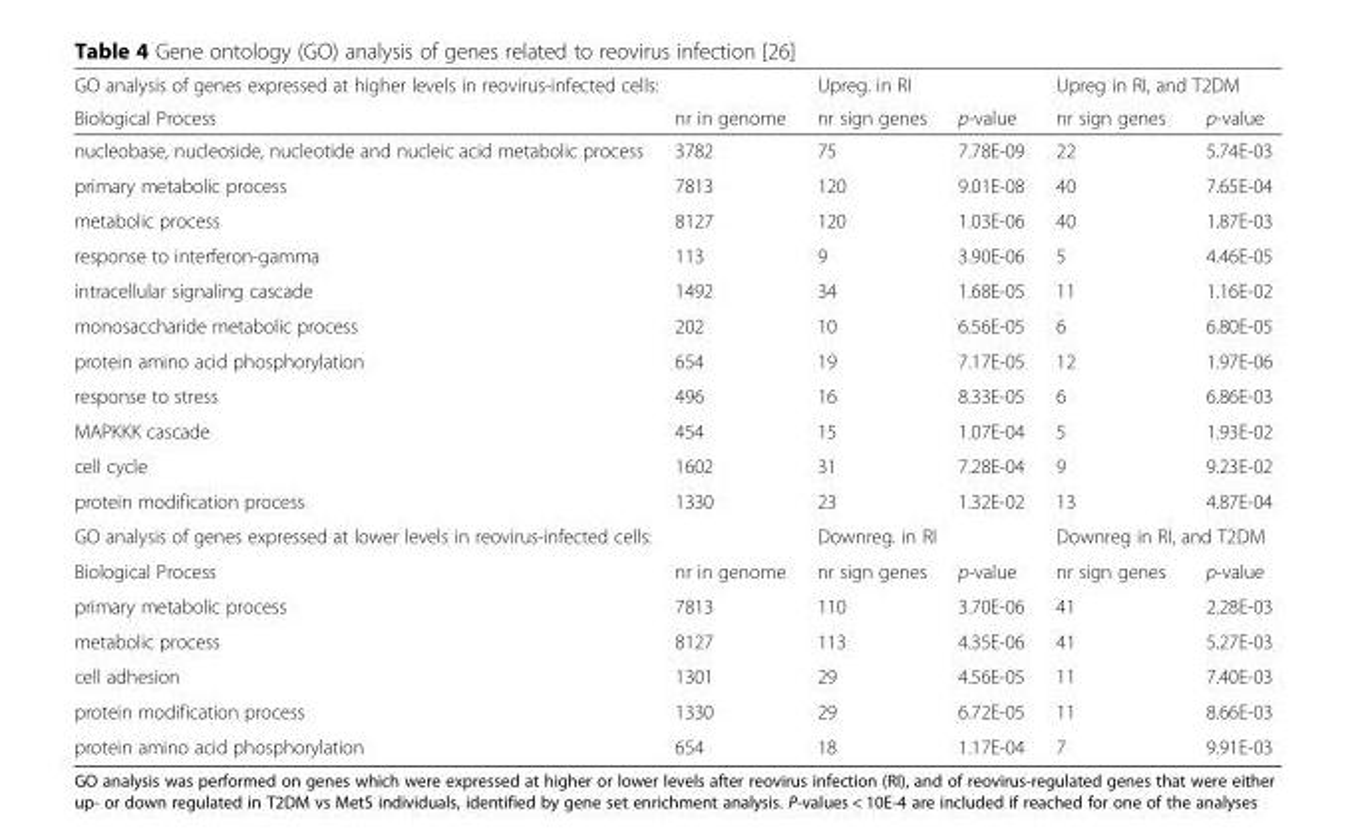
<table><thead><tr><td colspan="2">GO analysis of genes expressed at higher levels in reovirus-infected cells:</td><td colspan="2">Upreg. in RI</td><td colspan="2">Upreg in RI, and T2DM</td></tr><tr><td>Biological Process</td><td>nr in genome</td><td>nr sign genes</td><td>p-value</td><td>nr sign genes</td><td>p-value</td></tr></thead><tbody><tr><td>nucleobase, nucleoside, nucleotide and nucleic acid metabolic process</td><td>3782</td><td>75</td><td>7.78E-09</td><td>22</td><td>5.74E-03</td></tr><tr><td>primary metabolic process</td><td>7813</td><td>120</td><td>9.01E-08</td><td>40</td><td>7.65E-04</td></tr><tr><td>metabolic process</td><td>8127</td><td>120</td><td>1.03E-06</td><td>40</td><td>1.87E-03</td></tr><tr><td>response to interferon-gamma</td><td>113</td><td>9</td><td>3.90E-06</td><td>5</td><td>4.46E-05</td></tr><tr><td>intracellular signaling cascade</td><td>1492</td><td>34</td><td>1.68E-05</td><td>11</td><td>1.16E-02</td></tr><tr><td>monosaccharide metabolic process</td><td>202</td><td>10</td><td>6.56E-05</td><td>6</td><td>6.80E-05</td></tr><tr><td>protein amino acid phosphorylation</td><td>654</td><td>19</td><td>7.17E-05</td><td>12</td><td>1.97E-06</td></tr><tr><td>response to stress</td><td>496</td><td>16</td><td>8.33E-05</td><td>6</td><td>6.86E-03</td></tr><tr><td>MAPKKK cascade</td><td>454</td><td>15</td><td>1.07E-04</td><td>5</td><td>1.93E-02</td></tr><tr><td>cell cycle</td><td>1602</td><td>31</td><td>7.28E-04</td><td>9</td><td>9.23E-02</td></tr><tr><td>protein modification process</td><td>1330</td><td>23</td><td>1.32E-02</td><td>13</td><td>4.87E-04</td></tr><tr><td colspan="2">GO analysis of genes expressed at lower levels in reovirus-infected cells:</td><td colspan="2">Downreg. in RI</td><td colspan="2">Downreg in RI, and T2DM</td></tr><tr><td>Biological Process</td><td>nr in genome</td><td>nr sign genes</td><td>p-value</td><td>nr sign genes</td><td>p-value</td></tr><tr><td>primary metabolic process</td><td>7813</td><td>110</td><td>3.70E-06</td><td>41</td><td>2.28E-03</td></tr><tr><td>metabolic process</td><td>8127</td><td>113</td><td>4.35E-06</td><td>41</td><td>5.27E-03</td></tr><tr><td>cell adhesion</td><td>1301</td><td>29</td><td>4.56E-05</td><td>11</td><td>7.40E-03</td></tr><tr><td>protein modification process</td><td>1330</td><td>29</td><td>6.72E-05</td><td>11</td><td>8.66E-03</td></tr><tr><td>protein amino acid phosphorylation</td><td>654</td><td>18</td><td>1.17E-04</td><td>7</td><td>9.91E-03</td></tr></tbody></table>